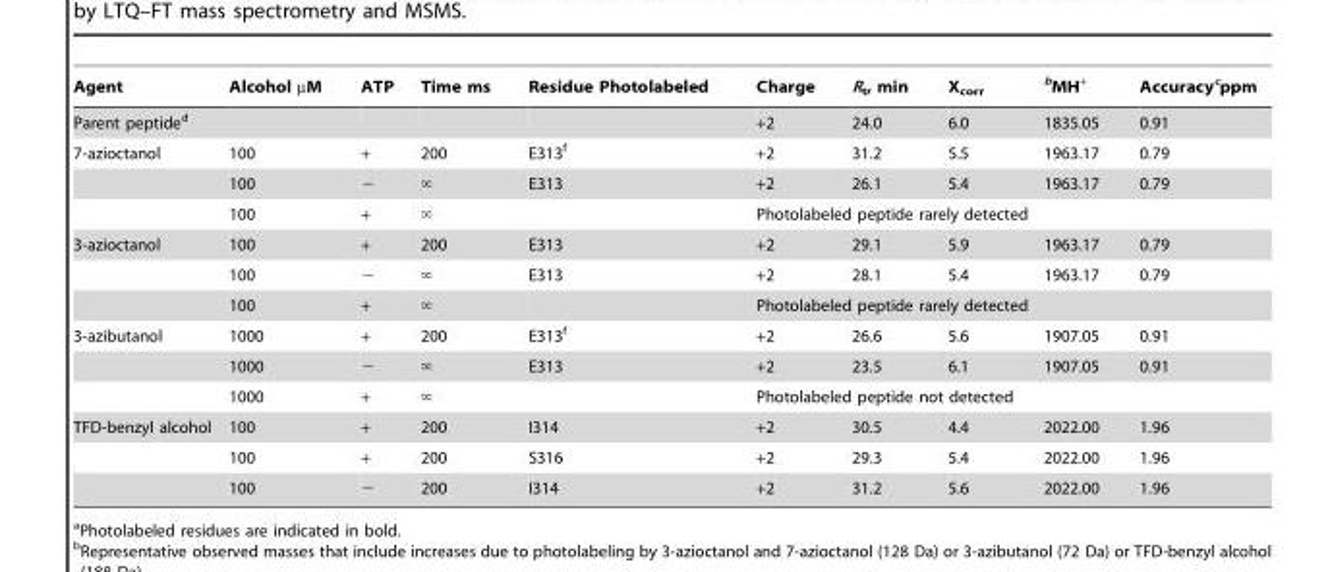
<table><thead><tr><td>Agent</td><td>Alcohol µM</td><td>ATP</td><td>Time ms</td><td>Residue Photolabeled</td><td>Charge</td><td>R<sub>t</sub>, min</td><td>X<sub>corr</sub></td><td>bMH<sup>+</sup></td><td>Accuracy<sup>c</sup>ppm</td></tr></thead><tbody><tr><td colspan="2">Parent peptide<sup>d</sup></td><td></td><td></td><td></td><td>+2</td><td>24.0</td><td>6.0</td><td>1835.05</td><td>0.91</td></tr><tr><td rowspan="3">7-azioctanol</td><td>100</td><td>+</td><td>200</td><td>E313<sup>f</sup></td><td>+2</td><td>31.2</td><td>5.5</td><td>1963.17</td><td>0.79</td></tr><tr><td>100</td><td>−</td><td>‘</td><td>E313</td><td>+2</td><td>26.1</td><td>5.4</td><td>1963.17</td><td>0.79</td></tr><tr><td>100</td><td>+</td><td>‘</td><td></td><td colspan="5">Photolabeled peptide rarely detected</td></tr><tr><td rowspan="3">3-azioctanol</td><td>100</td><td>+</td><td>200</td><td>E313</td><td>+2</td><td>29.1</td><td>5.9</td><td>1963.17</td><td>0.79</td></tr><tr><td>100</td><td>−</td><td>‘</td><td>E313</td><td>+2</td><td>28.1</td><td>5.4</td><td>1963.17</td><td>0.79</td></tr><tr><td>100</td><td>+</td><td>‘</td><td></td><td colspan="5">Photolabeled peptide rarely detected</td></tr><tr><td rowspan="3">3-azibutanol</td><td>1000</td><td>+</td><td>200</td><td>E313<sup>f</sup></td><td>+2</td><td>26.6</td><td>5.6</td><td>1907.05</td><td>0.91</td></tr><tr><td>1000</td><td>−</td><td>‘</td><td>E313</td><td>+2</td><td>23.5</td><td>6.1</td><td>1907.05</td><td>0.91</td></tr><tr><td>1000</td><td>+</td><td>‘</td><td></td><td colspan="5">Photolabeled peptide not detected</td></tr><tr><td rowspan="3">TFD-benzyl alcohol</td><td>100</td><td>+</td><td>200</td><td>I314</td><td>+2</td><td>30.5</td><td>4.4</td><td>2022.00</td><td>1.96</td></tr><tr><td>100</td><td>+</td><td>200</td><td>S316</td><td>+2</td><td>29.3</td><td>5.4</td><td>2022.00</td><td>1.96</td></tr><tr><td>100</td><td>−</td><td>200</td><td>I314</td><td>+2</td><td>31.2</td><td>5.6</td><td>2022.00</td><td>1.96</td></tr></tbody></table>